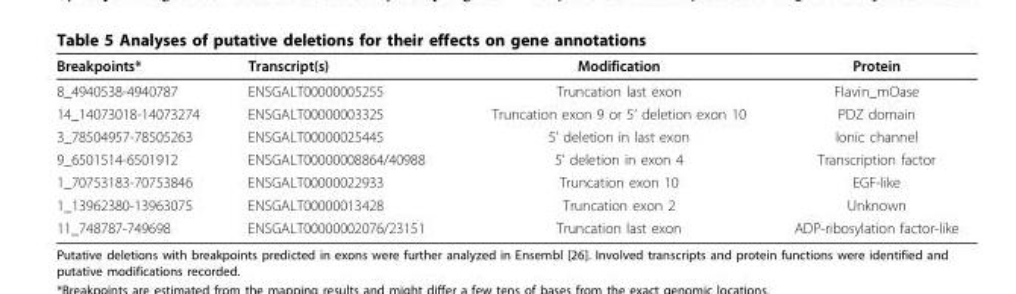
<table><thead><tr><td>Breakpoints*</td><td>Transcript(s)</td><td>Modification</td><td>Protein</td></tr></thead><tbody><tr><td>8_4940538-4940787</td><td>ENSGALT00000005255</td><td>Truncation last exon</td><td>Flavin_mOase</td></tr><tr><td>14_14073018-14073274</td><td>ENSGALT00000003325</td><td>Truncation exon 9 or 5’ deletion exon 10</td><td>PDZ domain</td></tr><tr><td>3_78504957-78505263</td><td>ENSGALT00000025445</td><td>5’ deletion in last exon</td><td>Ionic channel</td></tr><tr><td>9_6501514-6501912</td><td>ENSGALT00000008864/40988</td><td>5’ deletion in exon 4</td><td>Transcription factor</td></tr><tr><td>1_70753183-70753846</td><td>ENSGALT00000022933</td><td>Truncation exon 10</td><td>EGF-like</td></tr><tr><td>1_13962380-13963075</td><td>ENSGALT00000013428</td><td>Truncation exon 2</td><td>Unknown</td></tr><tr><td>11_748787-749698</td><td>ENSGALT00000002076/23151</td><td>Truncation last exon</td><td>ADP-ribosylation factor-like</td></tr></tbody></table>